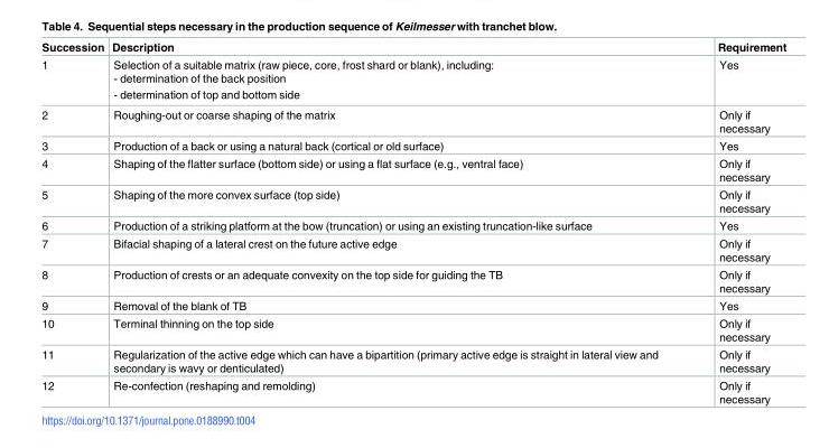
<table><thead><tr><td>Succession</td><td>Description</td><td>Requirement</td></tr></thead><tbody><tr><td>1</td><td>Selection of a suitable matrix (raw piece, core, frost shard or blank), including: - determination of the back position - determination of top and bottom side</td><td>Yes</td></tr><tr><td>2</td><td>Roughing-out or coarse shaping of the matrix</td><td>Only if necessary</td></tr><tr><td>3</td><td>Production of a back or using a natural back (cortical or old surface)</td><td>Yes</td></tr><tr><td>4</td><td>Shaping of the flatter surface (bottom side) or using a flat surface (e.g., ventral face)</td><td>Only if necessary</td></tr><tr><td>5</td><td>Shaping of the more convex surface (top side)</td><td>Only if necessary</td></tr><tr><td>6</td><td>Production of a striking platform at the bow (truncation) or using an existing truncation-like surface</td><td>Yes</td></tr><tr><td>7</td><td>Bifacial shaping of a lateral crest on the future active edge</td><td>Only if necessary</td></tr><tr><td>8</td><td>Production of crests or an adequate convexity on the top side for guiding the TB</td><td>Only if necessary</td></tr><tr><td>9</td><td>Removal of the blank of TB</td><td>Yes</td></tr><tr><td>10</td><td>Terminal thinning on the top side</td><td>Only if necessary</td></tr><tr><td>11</td><td>Regularization of the active edge which can have a bipartition (primary active edge is straight in lateral view and secondary is wavy or denticulated)</td><td>Only if necessary</td></tr><tr><td>12</td><td>Re-confection (reshaping and remolding)</td><td>Only if necessary</td></tr></tbody></table>